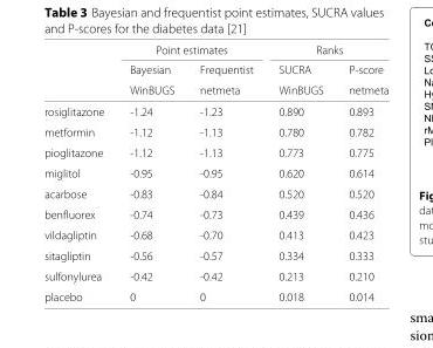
<table><thead><tr><td rowspan="3"></td><td colspan="2">Point estimates</td><td colspan="2">Ranks</td></tr><tr><td rowspan="2">Bayesian WinBUGS</td><td rowspan="2">Frequentist netmeta</td><td rowspan="2">SUCRA WinBUGS</td><td rowspan="2">P-score netmeta</td></tr><tr></tr></thead><tbody><tr><td>rosiglitazone</td><td>-1.24</td><td>-1.23</td><td>0.890</td><td>0.893</td></tr><tr><td>metformin</td><td>-1.12</td><td>-1.13</td><td>0.780</td><td>0.782</td></tr><tr><td>pioglitazone</td><td>-1.12</td><td>-1.13</td><td>0.773</td><td>0.775</td></tr><tr><td>miglitol</td><td>-0.95</td><td>-0.95</td><td>0.620</td><td>0.614</td></tr><tr><td>acarbose</td><td>-0.83</td><td>-0.84</td><td>0.520</td><td>0.520</td></tr><tr><td>benfluorex</td><td>-0.74</td><td>-0.73</td><td>0.439</td><td>0.436</td></tr><tr><td>vildagliptin</td><td>-0.68</td><td>-0.70</td><td>0.413</td><td>0.423</td></tr><tr><td>sitagliptin</td><td>-0.56</td><td>-0.57</td><td>0.334</td><td>0.333</td></tr><tr><td>sulfonylurea</td><td>-0.42</td><td>-0.42</td><td>0.213</td><td>0.210</td></tr><tr><td>placebo</td><td>0</td><td>0</td><td>0.018</td><td>0.014</td></tr></tbody></table>